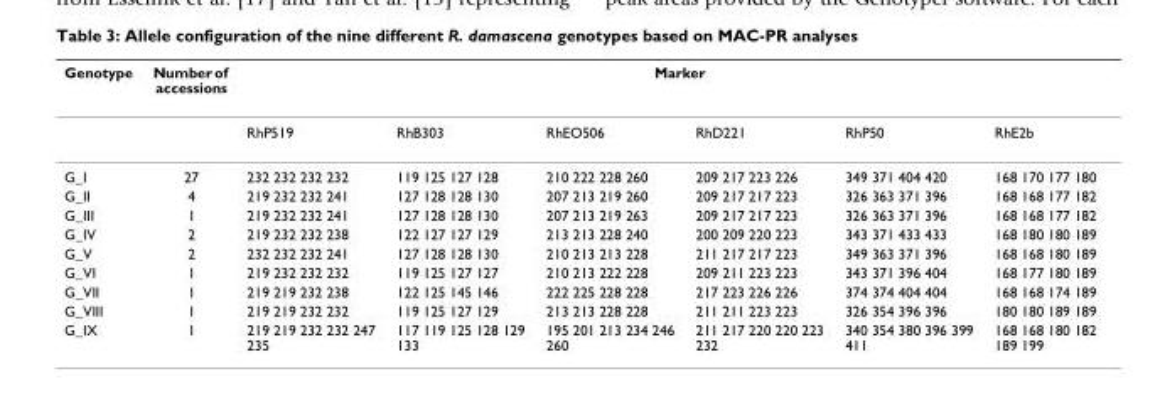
<table><thead><tr><td rowspan="2">Genotype</td><td rowspan="2">Number of accessions</td><td colspan="6">Marker</td></tr><tr><td>RhP519</td><td>RhB303</td><td>RhEO506</td><td>RhD221</td><td>RhP50</td><td>RhE2b</td></tr></thead><tbody><tr><td>G_I</td><td>27</td><td>232 232 232 232</td><td>119 125 127 128</td><td>210 222 228 260</td><td>209 217 223 226</td><td>349 371 404 420</td><td>168 170 177 180</td></tr><tr><td>G_II</td><td>4</td><td>219 232 232 241</td><td>127 128 128 130</td><td>207 213 219 260</td><td>209 217 217 223</td><td>326 363 371 396</td><td>168 168 177 182</td></tr><tr><td>G_III</td><td>1</td><td>219 232 232 241</td><td>127 128 128 130</td><td>207 213 219 263</td><td>209 217 217 223</td><td>326 363 371 396</td><td>168 168 177 182</td></tr><tr><td>G_IV</td><td>2</td><td>219 232 232 238</td><td>122 127 127 129</td><td>213 213 228 240</td><td>200 209 220 223</td><td>343 371 433 433</td><td>168 180 180 189</td></tr><tr><td>G_V</td><td>2</td><td>232 232 232 241</td><td>127 128 128 130</td><td>210 213 213 228</td><td>211 217 217 223</td><td>349 363 371 396</td><td>168 168 180 189</td></tr><tr><td>G_VI</td><td>1</td><td>219 232 232 232</td><td>119 125 127 127</td><td>210 213 222 228</td><td>209 211 223 223</td><td>343 371 396 404</td><td>168 177 180 189</td></tr><tr><td>G_VII</td><td>1</td><td>219 219 232 238</td><td>122 125 145 146</td><td>222 225 228 228</td><td>217 223 226 226</td><td>374 374 404 404</td><td>168 168 174 189</td></tr><tr><td>G_VIII</td><td>1</td><td>219 219 232 232</td><td>119 125 127 129</td><td>213 213 228 228</td><td>211 211 223 223</td><td>326 354 396 396</td><td>180 180 189 189</td></tr><tr><td>G_IX</td><td>1</td><td>219 219 232 232 247 235</td><td>117 119 125 128 129 133</td><td>195 201 213 234 246 260</td><td>211 217 220 220 223 232</td><td>340 354 380 396 399 411</td><td>168 168 180 182 189 199</td></tr></tbody></table>